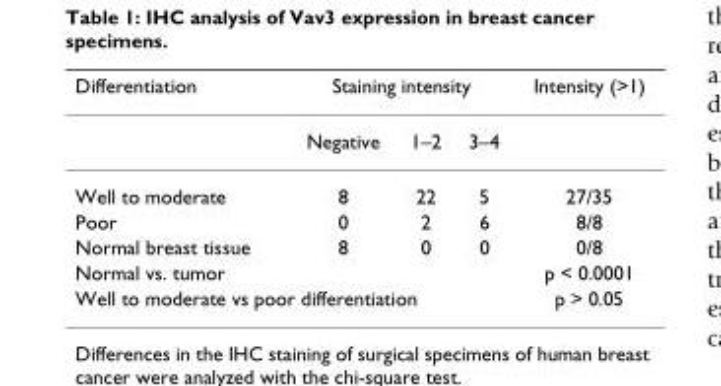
<table><thead><tr><td rowspan="2">Differentiation</td><td colspan="3">Staining intensity</td><td rowspan="2">Intensity (&gt;1)</td></tr><tr><td>Negative</td><td>1–2</td><td>3–4</td></tr></thead><tbody><tr><td>Well to moderate</td><td>8</td><td>22</td><td>5</td><td>27/35</td></tr><tr><td>Poor</td><td>0</td><td>2</td><td>6</td><td>8/8</td></tr><tr><td>Normal breast tissue</td><td>8</td><td>0</td><td>0</td><td>0/8</td></tr><tr><td colspan="4">Normal vs. tumor</td><td>p &lt; 0.0001</td></tr><tr><td colspan="4">Well to moderate vs poor differentiation</td><td>p &gt; 0.05</td></tr></tbody></table>